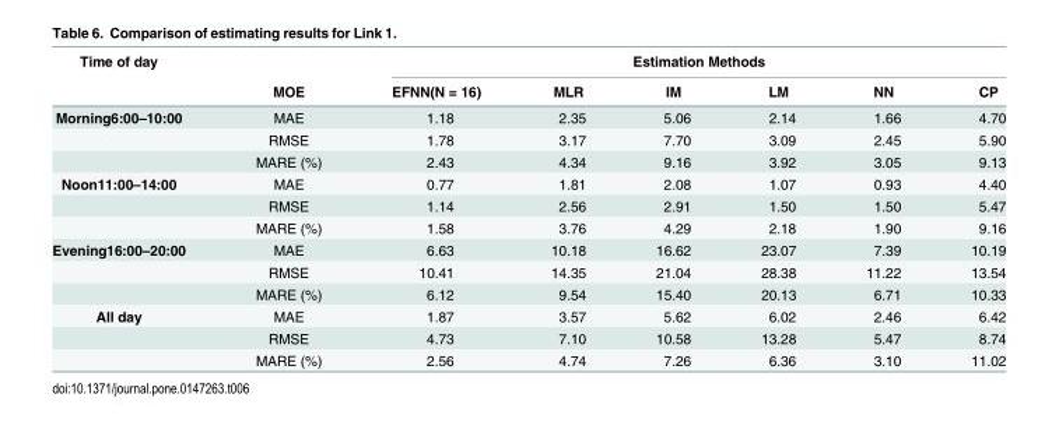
<table><thead><tr><td rowspan="2">Time of day</td><td rowspan="2">MOE</td><td colspan="6">Estimation Methods</td></tr><tr><td>EFNN(N = 16)</td><td>MLR</td><td>IM</td><td>LM</td><td>NN</td><td>CP</td></tr></thead><tbody><tr><td rowspan="3">Morning6:00–10:00</td><td>MAE</td><td>1.18</td><td>2.35</td><td>5.06</td><td>2.14</td><td>1.66</td><td>4.70</td></tr><tr><td>RMSE</td><td>1.78</td><td>3.17</td><td>7.70</td><td>3.09</td><td>2.45</td><td>5.90</td></tr><tr><td>MARE (%)</td><td>2.43</td><td>4.34</td><td>9.16</td><td>3.92</td><td>3.05</td><td>9.13</td></tr><tr><td rowspan="3">Noon11:00–14:00</td><td>MAE</td><td>0.77</td><td>1.81</td><td>2.08</td><td>1.07</td><td>0.93</td><td>4.40</td></tr><tr><td>RMSE</td><td>1.14</td><td>2.56</td><td>2.91</td><td>1.50</td><td>1.50</td><td>5.47</td></tr><tr><td>MARE (%)</td><td>1.58</td><td>3.76</td><td>4.29</td><td>2.18</td><td>1.90</td><td>9.16</td></tr><tr><td rowspan="3">Evening16:00–20:00</td><td>MAE</td><td>6.63</td><td>10.18</td><td>16.62</td><td>23.07</td><td>7.39</td><td>10.19</td></tr><tr><td>RMSE</td><td>10.41</td><td>14.35</td><td>21.04</td><td>28.38</td><td>11.22</td><td>13.54</td></tr><tr><td>MARE (%)</td><td>6.12</td><td>9.54</td><td>15.40</td><td>20.13</td><td>6.71</td><td>10.33</td></tr><tr><td rowspan="3">All day</td><td>MAE</td><td>1.87</td><td>3.57</td><td>5.62</td><td>6.02</td><td>2.46</td><td>6.42</td></tr><tr><td>RMSE</td><td>4.73</td><td>7.10</td><td>10.58</td><td>13.28</td><td>5.47</td><td>8.74</td></tr><tr><td>MARE (%)</td><td>2.56</td><td>4.74</td><td>7.26</td><td>6.36</td><td>3.10</td><td>11.02</td></tr></tbody></table>